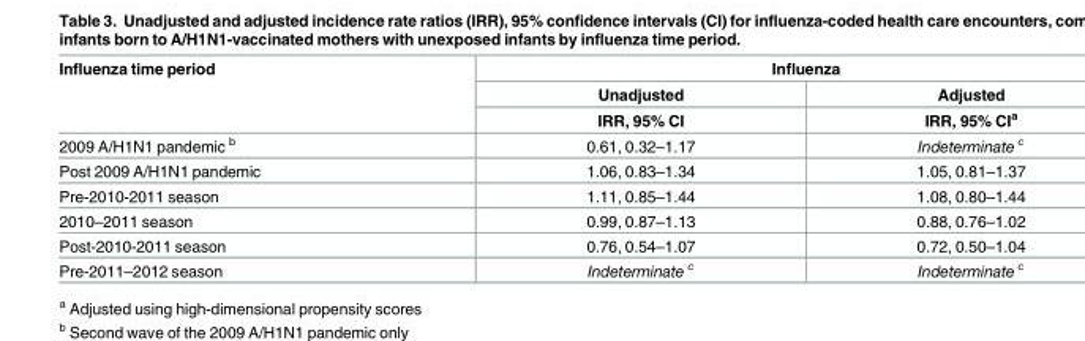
<table><thead><tr><td rowspan="3">Influenza time period</td><td colspan="2">Influenza</td></tr><tr><td rowspan="2">Unadjusted IRR, 95% CI</td><td rowspan="2">Adjusted IRR, 95% CI<sup>a</sup></td></tr><tr></tr></thead><tbody><tr><td>2009 A/H1N1 pandemic <sup>b</sup></td><td>0.61, 0.32–1.17</td><td>Indeterminate <sup>c</sup></td></tr><tr><td>Post 2009 A/H1N1 pandemic</td><td>1.06, 0.83–1.34</td><td>1.05, 0.81–1.37</td></tr><tr><td>Pre-2010-2011 season</td><td>1.11, 0.85–1.44</td><td>1.08, 0.80–1.44</td></tr><tr><td>2010–2011 season</td><td>0.99, 0.87–1.13</td><td>0.88, 0.76–1.02</td></tr><tr><td>Post-2010-2011 season</td><td>0.76, 0.54–1.07</td><td>0.72, 0.50–1.04</td></tr><tr><td>Pre-2011–2012 season</td><td>Indeterminate <sup>c</sup></td><td>Indeterminate <sup>c</sup></td></tr></tbody></table>